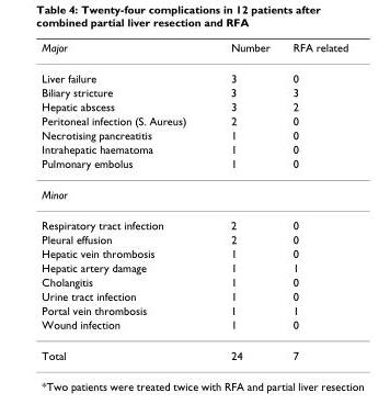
<table><thead><tr><td>Major</td><td>Number</td><td>RFA related</td></tr></thead><tbody><tr><td>Liver failure</td><td>3</td><td>0</td></tr><tr><td>Biliary stricture</td><td>3</td><td>3</td></tr><tr><td>Hepatic abscess</td><td>3</td><td>2</td></tr><tr><td>Peritoneal infection (S. Aureus)</td><td>2</td><td>0</td></tr><tr><td>Necrotising pancreatitis</td><td>1</td><td>0</td></tr><tr><td>Intrahepatic haematoma</td><td>1</td><td>0</td></tr><tr><td>Pulmonary embolus</td><td>1</td><td>0</td></tr><tr><td colspan="3">Minor</td></tr><tr><td>Respiratory tract infection</td><td>2</td><td>0</td></tr><tr><td>Pleural effusion</td><td>2</td><td>0</td></tr><tr><td>Hepatic vein thrombosis</td><td>1</td><td>0</td></tr><tr><td>Hepatic artery damage</td><td>1</td><td>1</td></tr><tr><td>Cholangitis</td><td>1</td><td>0</td></tr><tr><td>Urine tract infection</td><td>1</td><td>0</td></tr><tr><td>Portal vein thrombosis</td><td>1</td><td>1</td></tr><tr><td>Wound infection</td><td>1</td><td>0</td></tr><tr><td>Total</td><td>24</td><td>7</td></tr></tbody></table>